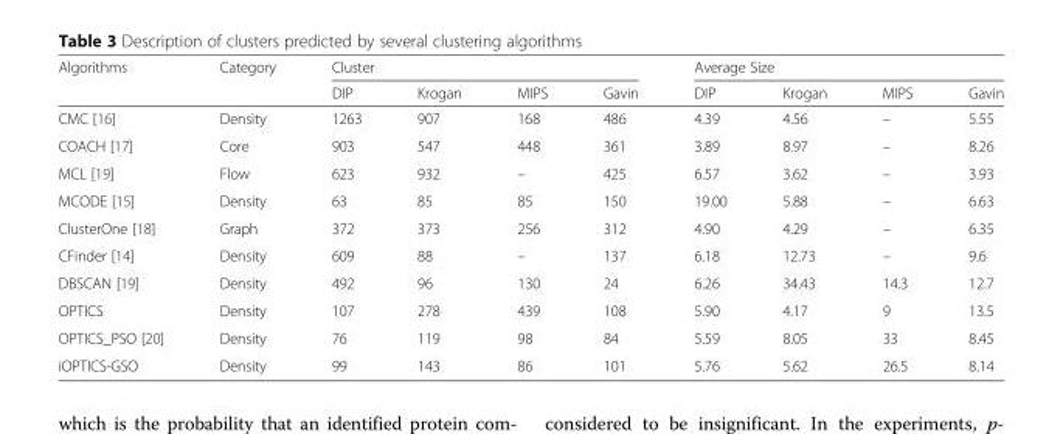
<table><thead><tr><td rowspan="2">Algorithms</td><td rowspan="2">Category</td><td colspan="4">Cluster</td><td colspan="4">Average Size</td></tr><tr><td>DIP</td><td>Krogan</td><td>MIPS</td><td>Gavin</td><td>DIP</td><td>Krogan</td><td>MIPS</td><td>Gavin</td></tr></thead><tbody><tr><td>CMC [16]</td><td>Density</td><td>1263</td><td>907</td><td>168</td><td>486</td><td>4.39</td><td>4.56</td><td>–</td><td>5.55</td></tr><tr><td>COACH [17]</td><td>Core</td><td>903</td><td>547</td><td>448</td><td>361</td><td>3.89</td><td>8.97</td><td>–</td><td>8.26</td></tr><tr><td>MCL [19]</td><td>Flow</td><td>623</td><td>932</td><td>–</td><td>425</td><td>6.57</td><td>3.62</td><td>–</td><td>3.93</td></tr><tr><td>MCODE [15]</td><td>Density</td><td>63</td><td>85</td><td>85</td><td>150</td><td>19.00</td><td>5.88</td><td>–</td><td>6.63</td></tr><tr><td>ClusterOne [18]</td><td>Graph</td><td>372</td><td>373</td><td>256</td><td>312</td><td>4.90</td><td>4.29</td><td>–</td><td>6.35</td></tr><tr><td>CFinder [14]</td><td>Density</td><td>609</td><td>88</td><td>–</td><td>137</td><td>6.18</td><td>12.73</td><td>–</td><td>9.6</td></tr><tr><td>DBSCAN [19]</td><td>Density</td><td>492</td><td>96</td><td>130</td><td>24</td><td>6.26</td><td>34.43</td><td>14.3</td><td>12.7</td></tr><tr><td>OPTICS</td><td>Density</td><td>107</td><td>278</td><td>439</td><td>108</td><td>5.90</td><td>4.17</td><td>9</td><td>13.5</td></tr><tr><td>OPTICS_PSO [20]</td><td>Density</td><td>76</td><td>119</td><td>98</td><td>84</td><td>5.59</td><td>8.05</td><td>33</td><td>8.45</td></tr><tr><td>iOPTICS-GSO</td><td>Density</td><td>99</td><td>143</td><td>86</td><td>101</td><td>5.76</td><td>5.62</td><td>26.5</td><td>8.14</td></tr></tbody></table>